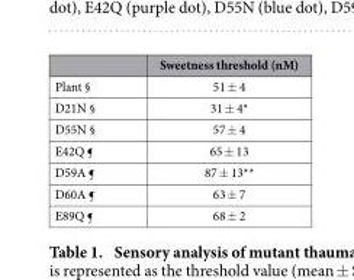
<table><thead><tr><td></td><td>Sweetness threshold (nM)</td></tr></thead><tbody><tr><td>Plant §</td><td>51 ± 4</td></tr><tr><td>D21N §</td><td>31 ± 4*</td></tr><tr><td>D55N §</td><td>57 ± 4</td></tr><tr><td>E42Q ¶</td><td>65 ± 13</td></tr><tr><td>D59A ¶</td><td>87 ± 13**</td></tr><tr><td>D60A ¶</td><td>63 ± 7</td></tr><tr><td>E89Q ¶</td><td>68 ± 2</td></tr></tbody></table>